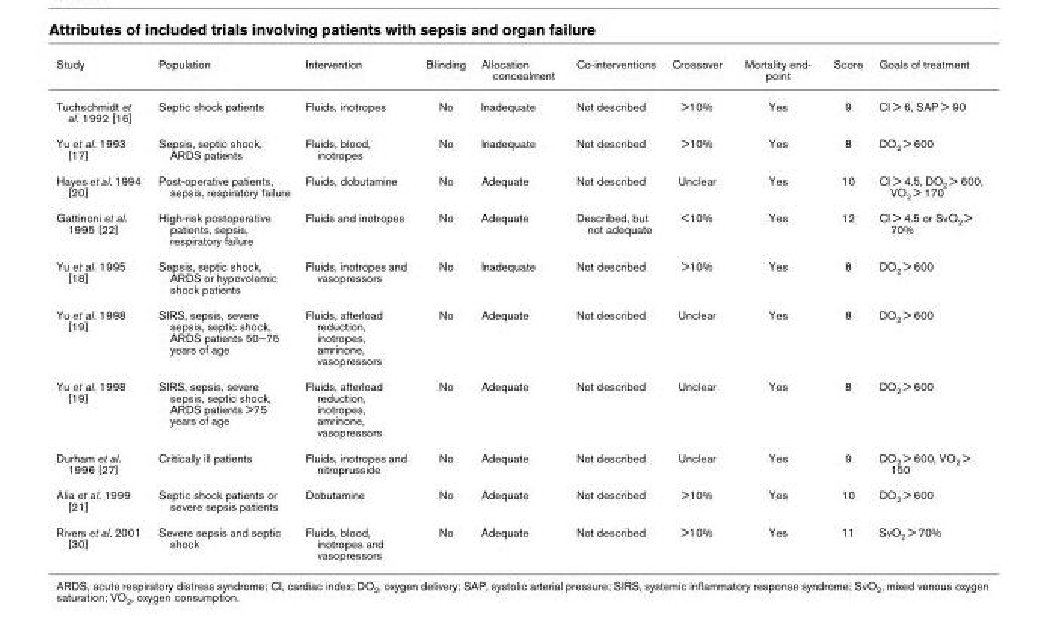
<table><thead><tr><td>Study</td><td>Population</td><td>Intervention</td><td>Blinding</td><td>Allocation concealment</td><td>Co-interventions</td><td>Crossover</td><td>Mortality end- point</td><td>Score</td><td>Goals of treatment</td></tr></thead><tbody><tr><td>Tuchschmidt et al. 1992 [16]</td><td>Septic shock patients</td><td>Fluids, inotropes</td><td>No</td><td>Inadequate</td><td>Not described</td><td>&gt;10%</td><td>Yes</td><td>9</td><td>CI &gt; 6, SAP &gt; 90</td></tr><tr><td>Yu et al. 1993 [17]</td><td>Sepsis, septic shock, ARDS patients</td><td>Fluids, blood, inotropes</td><td>No</td><td>Inadequate</td><td>Not described</td><td>&gt;10%</td><td>Yes</td><td>8</td><td>DO2 &gt; 600</td></tr><tr><td>Hayes et al. 1994 [20]</td><td>Post-operative patients, sepsis, respiratory failure</td><td>Fluids, dobutamine</td><td>No</td><td>Adequate</td><td>Not described</td><td>Unclear</td><td>Yes</td><td>10</td><td>CI &gt; 4.5, DO2 &gt; 600, VO2 &gt; 170</td></tr><tr><td>Gattinoni et al. 1995 [22]</td><td>High-risk postoperative patients, sepsis, respiratory failure</td><td>Fluids and inotropes</td><td>No</td><td>Adequate</td><td>Described, but not adequate</td><td>&lt;10%</td><td>Yes</td><td>12</td><td>CI &gt; 4.5 or SvO2 &gt; 70%</td></tr><tr><td>Yu et al. 1995 [18]</td><td>Sepsis, septic shock, ARDS or hypovolemic shock patients</td><td>Fluids, inotropes and vasopressors</td><td>No</td><td>Inadequate</td><td>Not described</td><td>&gt;10%</td><td>Yes</td><td>8</td><td>DO2 &gt; 600</td></tr><tr><td>Yu et al. 1998 [19]</td><td>SIRS, sepsis, severe sepsis, septic shock, ARDS patients 50–75 years of age</td><td>Fluids, afterload reduction, inotropes, amrinone, vasopressors</td><td>No</td><td>Adequate</td><td>Not described</td><td>Unclear</td><td>Yes</td><td>8</td><td>DO2 &gt; 600</td></tr><tr><td>Yu et al. 1998 [19]</td><td>SIRS, sepsis, severe sepsis, septic shock, ARDS patients &gt;75 years of age</td><td>Fluids, afterload reduction, inotropes, amrinone, vasopressors</td><td>No</td><td>Adequate</td><td>Not described</td><td>Unclear</td><td>Yes</td><td>8</td><td>DO2 &gt; 600</td></tr><tr><td>Durham et al. 1996 [27]</td><td>Critically ill patients</td><td>Fluids, inotropes and nitroprusside</td><td>No</td><td>Adequate</td><td>Not described</td><td>Unclear</td><td>Yes</td><td>9</td><td>DO2 &gt; 600, VO2 &gt; 150</td></tr><tr><td>Alia et al. 1999 [21]</td><td>Septic shock patients or severe sepsis patients</td><td>Dobutamine</td><td>No</td><td>Adequate</td><td>Not described</td><td>&gt;10%</td><td>Yes</td><td>10</td><td>DO2 &gt; 600</td></tr><tr><td>Rivers et al. 2001 [30]</td><td>Severe sepsis and septic shock</td><td>Fluids, blood, inotropes and vasopressors</td><td>No</td><td>Adequate</td><td>Not described</td><td>&gt;10%</td><td>Yes</td><td>11</td><td>SvO2 &gt; 70%</td></tr></tbody></table>